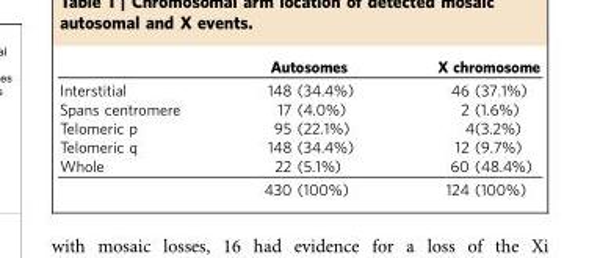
<table><thead><tr><td></td><td>Autosomes</td><td>X chromosome</td></tr></thead><tbody><tr><td>Interstitial</td><td>148 (34.4%)</td><td>46 (37.1%)</td></tr><tr><td>Spans centromere</td><td>17 (4.0%)</td><td>2 (1.6%)</td></tr><tr><td>Telomeric p</td><td>95 (22.1%)</td><td>4(3.2%)</td></tr><tr><td>Telomeric q</td><td>148 (34.4%)</td><td>12 (9.7%)</td></tr><tr><td rowspan="2">Whole</td><td>22 (5.1%)</td><td>60 (48.4%)</td></tr><tr><td>430 (100%)</td><td>124 (100%)</td></tr></tbody></table>